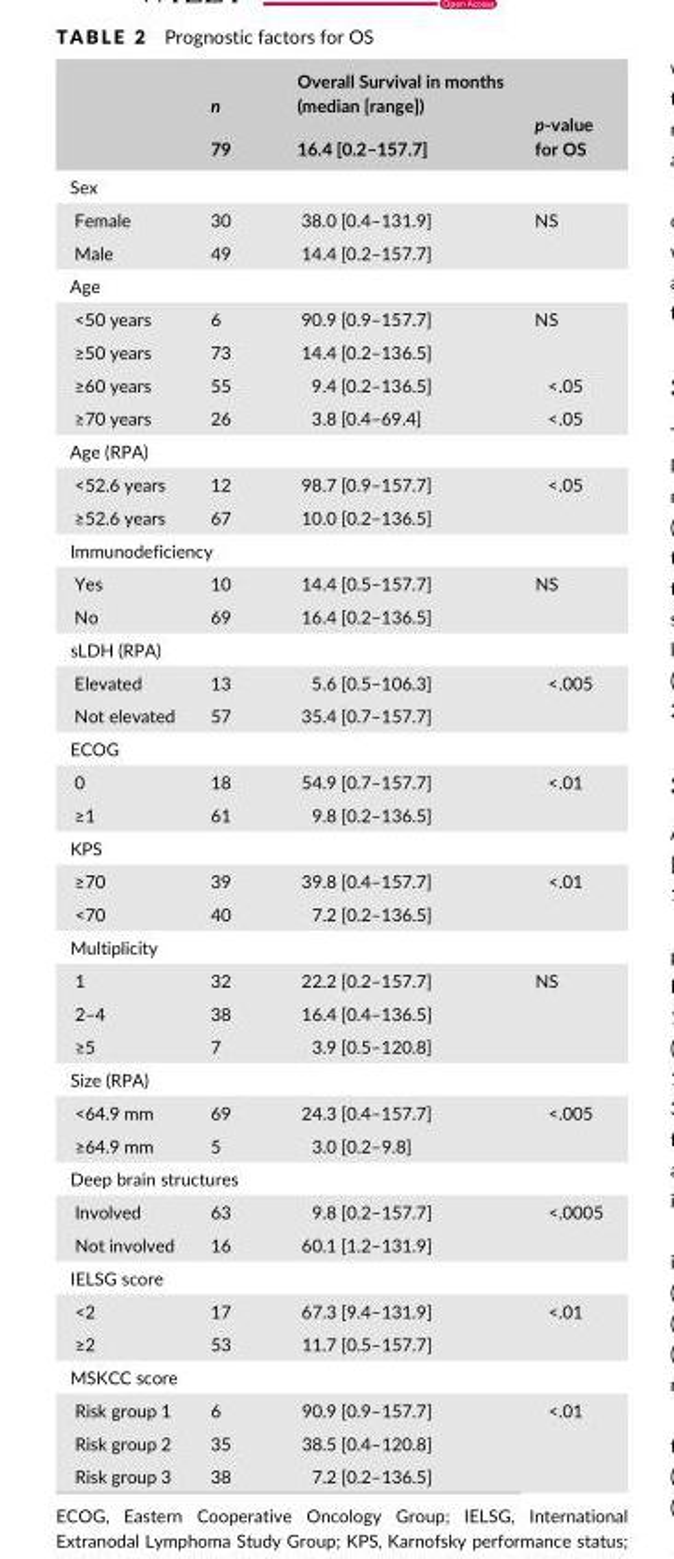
<table><thead><tr><td rowspan="2"></td><td rowspan="2">n 79</td><td rowspan="2">Overall Survival in months (median [range]) 16.4 [0.2–157.7]</td><td rowspan="2">p- value for OS</td></tr><tr></tr></thead><tbody><tr><td colspan="4">Sex</td></tr><tr><td>Female</td><td>30</td><td>38.0 [0.4–131.9]</td><td rowspan="2">NS</td></tr><tr><td>Male</td><td>49</td><td>14.4 [0.2–157.7]</td></tr><tr><td colspan="4">Age</td></tr><tr><td>&lt;50 years</td><td>6</td><td>90.9 [0.9–157.7]</td><td rowspan="2">NS</td></tr><tr><td>≥50 years</td><td>73</td><td>14.4 [0.2–136.5]</td></tr><tr><td>≥60 years</td><td>55</td><td>9.4 [0.2–136.5]</td><td>&lt;.05</td></tr><tr><td>≥70 years</td><td>26</td><td>3.8 [0.4–69.4]</td><td>&lt;.05</td></tr><tr><td colspan="4">Age (RPA)</td></tr><tr><td>&lt;52.6 years</td><td>12</td><td>98.7 [0.9–157.7]</td><td rowspan="2">&lt;.05</td></tr><tr><td>≥52.6 years</td><td>67</td><td>10.0 [0.2–136.5]</td></tr><tr><td colspan="4">Immunodeficiency</td></tr><tr><td>Yes</td><td>10</td><td>14.4 [0.5–157.7]</td><td rowspan="2">NS</td></tr><tr><td>No</td><td>69</td><td>16.4 [0.2–136.5]</td></tr><tr><td colspan="4">sLDH (RPA)</td></tr><tr><td>Elevated</td><td>13</td><td>5.6 [0.5–106.3]</td><td rowspan="2">&lt;.005</td></tr><tr><td>Not elevated</td><td>57</td><td>35.4 [0.7–157.7]</td></tr><tr><td colspan="4">ECOG</td></tr><tr><td>0</td><td>18</td><td>54.9 [0.7–157.7]</td><td rowspan="2">&lt;.01</td></tr><tr><td>≥1</td><td>61</td><td>9.8 [0.2–136.5]</td></tr><tr><td colspan="4">KPS</td></tr><tr><td>≥70</td><td>39</td><td>39.8 [0.4–157.7]</td><td rowspan="2">&lt;.01</td></tr><tr><td>&lt;70</td><td>40</td><td>7.2 [0.2–136.5]</td></tr><tr><td colspan="4">Multiplicity</td></tr><tr><td>1</td><td>32</td><td>22.2 [0.2–157.7]</td><td rowspan="3">NS</td></tr><tr><td>2–4</td><td>38</td><td>16.4 [0.4–136.5]</td></tr><tr><td>≥5</td><td>7</td><td>3.9 [0.5–120.8]</td></tr><tr><td colspan="4">Size (RPA)</td></tr><tr><td>&lt;64.9 mm</td><td>69</td><td>24.3 [0.4–157.7]</td><td rowspan="2">&lt;.005</td></tr><tr><td>≥64.9 mm</td><td>5</td><td>3.0 [0.2–9.8]</td></tr><tr><td colspan="4">Deep brain structures</td></tr><tr><td>Involved</td><td>63</td><td>9.8 [0.2–157.7]</td><td rowspan="2">&lt;.0005</td></tr><tr><td>Not involved</td><td>16</td><td>60.1 [1.2–131.9]</td></tr><tr><td colspan="4">IELSG score</td></tr><tr><td>&lt;2</td><td>17</td><td>67.3 [9.4–131.9]</td><td rowspan="2">&lt;.01</td></tr><tr><td>≥2</td><td>53</td><td>11.7 [0.5–157.7]</td></tr><tr><td colspan="4">MSKCC score</td></tr><tr><td>Risk group 1</td><td>6</td><td>90.9 [0.9–157.7]</td><td rowspan="3">&lt;.01</td></tr><tr><td>Risk group 2</td><td>35</td><td>38.5 [0.4–120.8]</td></tr><tr><td>Risk group 3</td><td>38</td><td>7.2 [0.2–136.5]</td></tr></tbody></table>